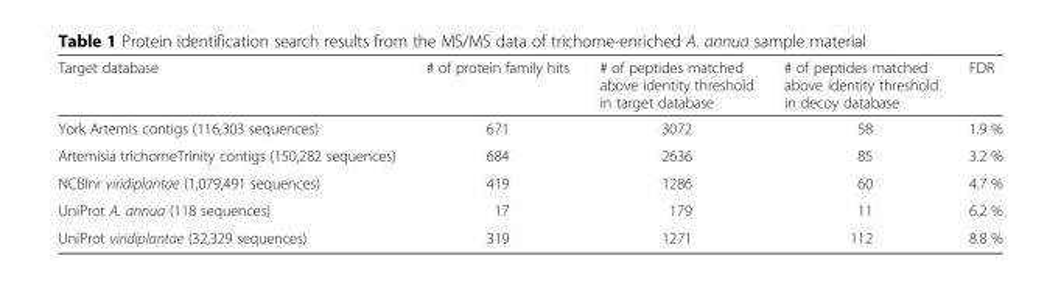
<table><thead><tr><td>Target database</td><td># of protein family hits</td><td># of peptides matched above identity threshold in target database</td><td># of peptides matched above identity threshold in decoy database</td><td>FDR</td></tr></thead><tbody><tr><td>York Artemis contigs (116,303 sequences)</td><td>671</td><td>3072</td><td>58</td><td>1.9 %</td></tr><tr><td>Artemisia trichomeTrinity contigs (150,282 sequences)</td><td>684</td><td>2636</td><td>85</td><td>3.2 %</td></tr><tr><td>NCBInr viridiplantae (1,079,491 sequences)</td><td>419</td><td>1286</td><td>60</td><td>4.7 %</td></tr><tr><td>UniProt A. annua (118 sequences)</td><td>17</td><td>179</td><td>11</td><td>6.2 %</td></tr><tr><td>UniProt viridiplantae (32,329 sequences)</td><td>319</td><td>1271</td><td>112</td><td>8.8 %</td></tr></tbody></table>